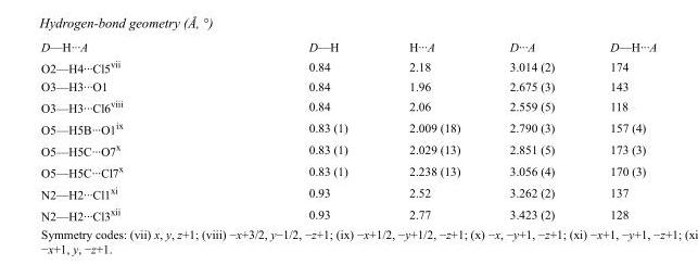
<table><tbody><tr><td>D—H···A</td><td>D—H</td><td>H···A</td><td>D···A</td><td>D—H···A</td></tr><tr><td>O2—H4···Cl5<sup>vii</sup></td><td>0.84</td><td>2.18</td><td>3.014 (2)</td><td>174</td></tr><tr><td>O3—H3···O1</td><td>0.84</td><td>1.96</td><td>2.675 (3)</td><td>143</td></tr><tr><td>O3—H3···Cl6<sup>viii</sup></td><td>0.84</td><td>2.06</td><td>2.559 (5)</td><td>118</td></tr><tr><td>O5—H5B···O1<sup>ix</sup></td><td>0.83 (1)</td><td>2.009 (18)</td><td>2.790 (3)</td><td>157 (4)</td></tr><tr><td>O5—H5C···O7<sup>x</sup></td><td>0.83 (1)</td><td>2.029 (13)</td><td>2.851 (5)</td><td>173 (3)</td></tr><tr><td>O5—H5C···Cl7<sup>x</sup></td><td>0.83 (1)</td><td>2.238 (13)</td><td>3.056 (4)</td><td>170 (3)</td></tr><tr><td>N2—H2···Cl1<sup>xi</sup></td><td>0.93</td><td>2.52</td><td>3.262 (2)</td><td>137</td></tr><tr><td>N2—H2···Cl3<sup>xii</sup></td><td>0.93</td><td>2.77</td><td>3.423 (2)</td><td>128</td></tr></tbody></table>